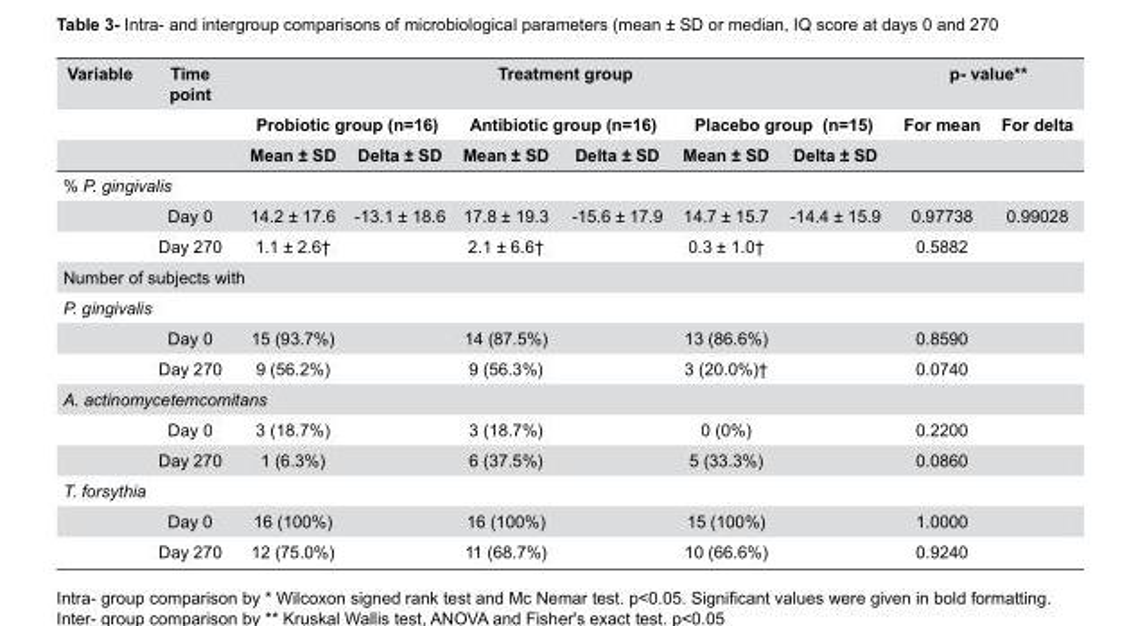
<table><thead><tr><td rowspan="3">Variable</td><td rowspan="3">Time point</td><td></td><td></td><td rowspan="2" colspan="2">Treatment group Antibiotic group (n=16)</td><td></td><td></td><td colspan="2">p- value**</td></tr><tr><td colspan="2">Probiotic group (n=16)</td><td colspan="2">Placebo group (n=15)</td><td rowspan="2">For mean</td><td rowspan="2">For delta</td></tr><tr><td>Mean ± SD</td><td>Delta ± SD</td><td>Mean ± SD</td><td>Delta ± SD</td><td>Mean ± SD</td><td>Delta ± SD</td></tr></thead><tbody><tr><td colspan="10">% P. gingivalis</td></tr><tr><td></td><td>Day 0</td><td>14.2 ± 17.6</td><td>-13.1 ± 18.6</td><td>17.8 ± 19.3</td><td>-15.6 ± 17.9</td><td>14.7 ± 15.7</td><td>-14.4 ± 15.9</td><td>0.97738</td><td>0.99028</td></tr><tr><td></td><td>Day 270</td><td>1.1 ± 2.6†</td><td></td><td>2.1 ± 6.6†</td><td></td><td>0.3 ± 1.0†</td><td></td><td>0.5882</td><td></td></tr><tr><td colspan="10">Number of subjects with</td></tr><tr><td colspan="10">P. gingivalis</td></tr><tr><td></td><td>Day 0</td><td>15 (93.7%)</td><td></td><td>14 (87.5%)</td><td></td><td>13 (86.6%)</td><td></td><td>0.8590</td><td></td></tr><tr><td></td><td>Day 270</td><td>9 (56.2%)</td><td></td><td>9 (56.3%)</td><td></td><td>3 (20.0%)†</td><td></td><td>0.0740</td><td></td></tr><tr><td colspan="10">A. actinomycetemcomitans</td></tr><tr><td></td><td>Day 0</td><td>3 (18.7%)</td><td></td><td>3 (18.7%)</td><td></td><td>0 (0%)</td><td></td><td>0.2200</td><td></td></tr><tr><td></td><td>Day 270</td><td>1 (6.3%)</td><td></td><td>6 (37.5%)</td><td></td><td>5 (33.3%)</td><td></td><td>0.0860</td><td></td></tr><tr><td colspan="10">T. forsythia</td></tr><tr><td></td><td>Day 0</td><td>16 (100%)</td><td></td><td>16 (100%)</td><td></td><td>15 (100%)</td><td></td><td>1.0000</td><td></td></tr><tr><td></td><td>Day 270</td><td>12 (75.0%)</td><td></td><td>11 (68.7%)</td><td></td><td>10 (66.6%)</td><td></td><td>0.9240</td><td></td></tr></tbody></table>